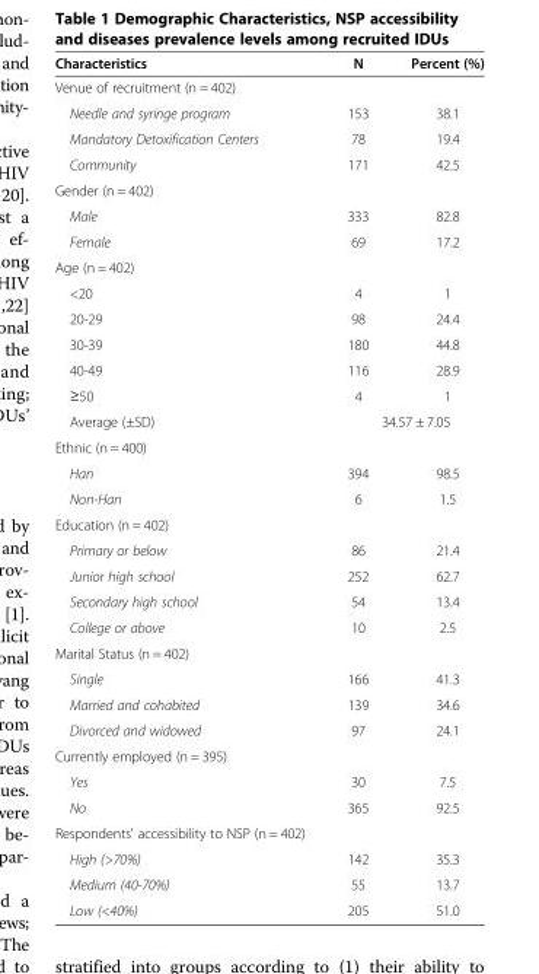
<table><thead><tr><td>Characteristics</td><td>N</td><td>Percent (%)</td></tr></thead><tbody><tr><td colspan="3">Venue of recruitment (n = 402)</td></tr><tr><td>Needle and syringe program</td><td>153</td><td>38.1</td></tr><tr><td>Mandatory Detoxification Centers</td><td>78</td><td>19.4</td></tr><tr><td>Community</td><td>171</td><td>42.5</td></tr><tr><td colspan="3">Gender (n = 402)</td></tr><tr><td>Male</td><td>333</td><td>82.8</td></tr><tr><td>Female</td><td>69</td><td>17.2</td></tr><tr><td colspan="3">Age (n = 402)</td></tr><tr><td>&lt;20</td><td>4</td><td>1</td></tr><tr><td>20-29</td><td>98</td><td>24.4</td></tr><tr><td>30-39</td><td>180</td><td>44.8</td></tr><tr><td>40-49</td><td>116</td><td>28.9</td></tr><tr><td>≥50</td><td>4</td><td>1</td></tr><tr><td>Average (±SD)</td><td colspan="2">34.57 ± 7.05</td></tr><tr><td colspan="3">Ethnic (n = 400)</td></tr><tr><td>Han</td><td>394</td><td>98.5</td></tr><tr><td>Non-Han</td><td>6</td><td>1.5</td></tr><tr><td colspan="3">Education (n = 402)</td></tr><tr><td>Primary or below</td><td>86</td><td>21.4</td></tr><tr><td>Junior high school</td><td>252</td><td>62.7</td></tr><tr><td>Secondary high school</td><td>54</td><td>13.4</td></tr><tr><td>College or above</td><td>10</td><td>2.5</td></tr><tr><td colspan="3">Marital Status (n = 402)</td></tr><tr><td>Single</td><td>166</td><td>41.3</td></tr><tr><td>Married and cohabited</td><td>139</td><td>34.6</td></tr><tr><td>Divorced and widowed</td><td>97</td><td>24.1</td></tr><tr><td colspan="3">Currently employed (n = 395)</td></tr><tr><td>Yes</td><td>30</td><td>7.5</td></tr><tr><td>No</td><td>365</td><td>92.5</td></tr><tr><td colspan="3">Respondents&#x27; accessibility to NSP (n = 402)</td></tr><tr><td>High (&gt;70%)</td><td>142</td><td>35.3</td></tr><tr><td>Medium (40-70%)</td><td>55</td><td>13.7</td></tr><tr><td>Low (&lt;40%)</td><td>205</td><td>51.0</td></tr></tbody></table>